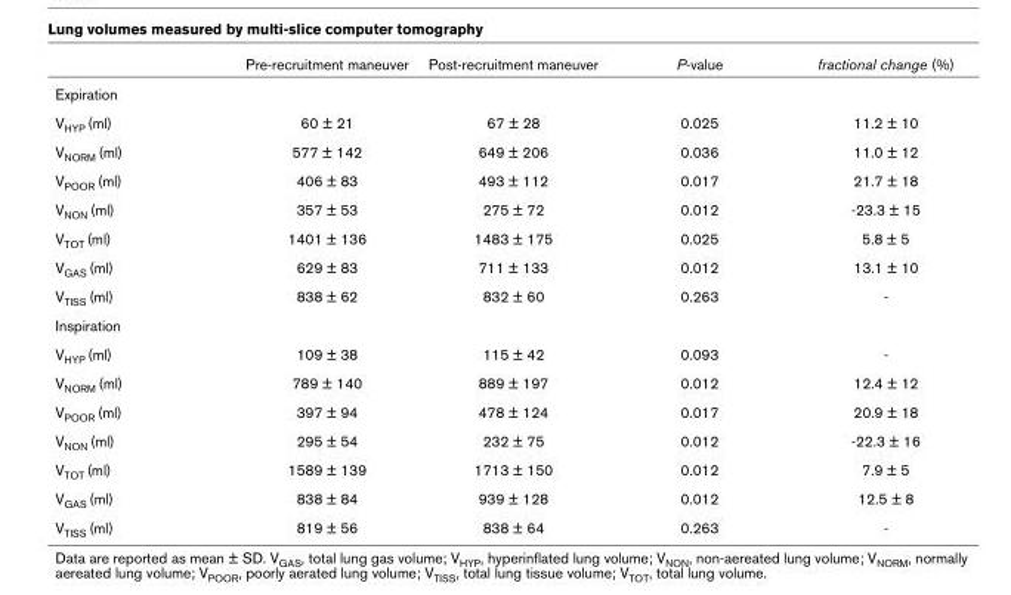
<table><thead><tr><td></td><td>Pre-recruitment maneuver</td><td>Post-recruitment maneuver</td><td>P-value</td><td>fractional change (%)</td></tr></thead><tbody><tr><td colspan="5">Expiration</td></tr><tr><td>VHYP (ml)</td><td>60 ± 21</td><td>67 ± 28</td><td>0.025</td><td>11.2 ± 10</td></tr><tr><td>VNORM (ml)</td><td>577 ± 142</td><td>649 ± 206</td><td>0.036</td><td>11.0 ± 12</td></tr><tr><td>VPOOR (ml)</td><td>406 ± 83</td><td>493 ± 112</td><td>0.017</td><td>21.7 ± 18</td></tr><tr><td>VNON (ml)</td><td>357 ± 53</td><td>275 ± 72</td><td>0.012</td><td>-23.3 ± 15</td></tr><tr><td>VTOT (ml)</td><td>1401 ± 136</td><td>1483 ± 175</td><td>0.025</td><td>5.8 ± 5</td></tr><tr><td>VGAS (ml)</td><td>629 ± 83</td><td>711 ± 133</td><td>0.012</td><td>13.1 ± 10</td></tr><tr><td>VTISS (ml)</td><td>838 ± 62</td><td>832 ± 60</td><td>0.263</td><td>-</td></tr><tr><td colspan="5">Inspiration</td></tr><tr><td>VHYP (ml)</td><td>109 ± 38</td><td>115 ± 42</td><td>0.093</td><td>-</td></tr><tr><td>VNORM (ml)</td><td>789 ± 140</td><td>889 ± 197</td><td>0.012</td><td>12.4 ± 12</td></tr><tr><td>VPOOR (ml)</td><td>397 ± 94</td><td>478 ± 124</td><td>0.017</td><td>20.9 ± 18</td></tr><tr><td>VNON (ml)</td><td>295 ± 54</td><td>232 ± 75</td><td>0.012</td><td>-22.3 ± 16</td></tr><tr><td>VTOT (ml)</td><td>1589 ± 139</td><td>1713 ± 150</td><td>0.012</td><td>7.9 ± 5</td></tr><tr><td>VGAS (ml)</td><td>838 ± 84</td><td>939 ± 128</td><td>0.012</td><td>12.5 ± 8</td></tr><tr><td>VTISS (ml)</td><td>819 ± 56</td><td>838 ± 64</td><td>0.263</td><td>-</td></tr></tbody></table>